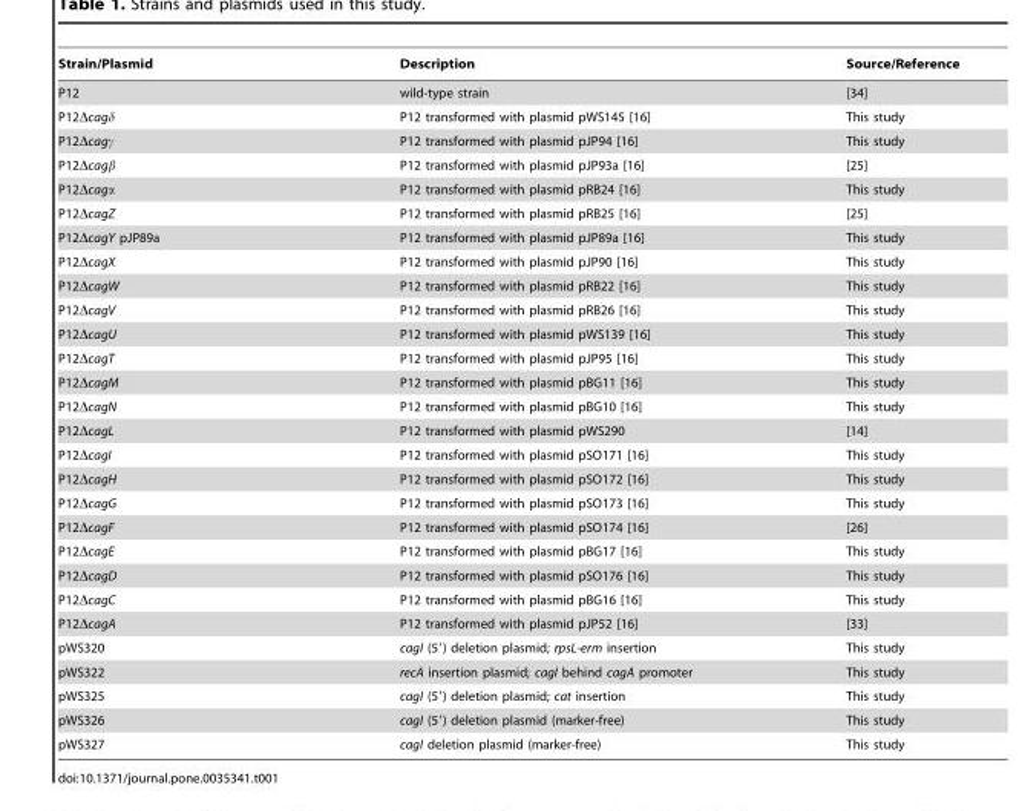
<table><thead><tr><td>Strain/Plasmid</td><td>Description</td><td>Source/Reference</td></tr></thead><tbody><tr><td>P12</td><td>wild-type strain</td><td>[34]</td></tr><tr><td>P12Δcagδ</td><td>P12 transformed with plasmid pWS145 [16]</td><td>This study</td></tr><tr><td>P12Δcagγ</td><td>P12 transformed with plasmid pJP94 [16]</td><td>This study</td></tr><tr><td>P12Δcagβ</td><td>P12 transformed with plasmid pJP93a [16]</td><td>[25]</td></tr><tr><td>P12Δcagα</td><td>P12 transformed with plasmid pRB24 [16]</td><td>This study</td></tr><tr><td>P12ΔcagZ</td><td>P12 transformed with plasmid pRB25 [16]</td><td>[25]</td></tr><tr><td>P12ΔcagY pJP89a</td><td>P12 transformed with plasmid pJP89a [16]</td><td>This study</td></tr><tr><td>P12ΔcagX</td><td>P12 transformed with plasmid pJP90 [16]</td><td>This study</td></tr><tr><td>P12ΔcagW</td><td>P12 transformed with plasmid pRB22 [16]</td><td>This study</td></tr><tr><td>P12ΔcagV</td><td>P12 transformed with plasmid pRB26 [16]</td><td>This study</td></tr><tr><td>P12ΔcagU</td><td>P12 transformed with plasmid pWS139 [16]</td><td>This study</td></tr><tr><td>P12ΔcagT</td><td>P12 transformed with plasmid pJP95 [16]</td><td>This study</td></tr><tr><td>P12ΔcagM</td><td>P12 transformed with plasmid pBG11 [16]</td><td>This study</td></tr><tr><td>P12ΔcagN</td><td>P12 transformed with plasmid pBG10 [16]</td><td>This study</td></tr><tr><td>P12ΔcagL</td><td>P12 transformed with plasmid pWS290</td><td>[14]</td></tr><tr><td>P12ΔcagI</td><td>P12 transformed with plasmid pSO171 [16]</td><td>This study</td></tr><tr><td>P12ΔcagH</td><td>P12 transformed with plasmid pSO172 [16]</td><td>This study</td></tr><tr><td>P12ΔcagG</td><td>P12 transformed with plasmid pSO173 [16]</td><td>This study</td></tr><tr><td>P12ΔcagF</td><td>P12 transformed with plasmid pSO174 [16]</td><td>[26]</td></tr><tr><td>P12ΔcagE</td><td>P12 transformed with plasmid pBG17 [16]</td><td>This study</td></tr><tr><td>P12ΔcagD</td><td>P12 transformed with plasmid pSO176 [16]</td><td>This study</td></tr><tr><td>P12ΔcagC</td><td>P12 transformed with plasmid pBG16 [16]</td><td>This study</td></tr><tr><td>P12ΔcagA</td><td>P12 transformed with plasmid pJP52 [16]</td><td>[33]</td></tr><tr><td>pWS320</td><td>cagI (5′) deletion plasmid; rpsL-erm insertion</td><td>This study</td></tr><tr><td>pWS322</td><td>recA insertion plasmid; cagI behind cagA promoter</td><td>This study</td></tr><tr><td>pWS325</td><td>cagI (5′) deletion plasmid; cat insertion</td><td>This study</td></tr><tr><td>pWS326</td><td>cagI (5′) deletion plasmid (marker-free)</td><td>This study</td></tr><tr><td>pWS327</td><td>cagI deletion plasmid (marker-free)</td><td>This study</td></tr></tbody></table>